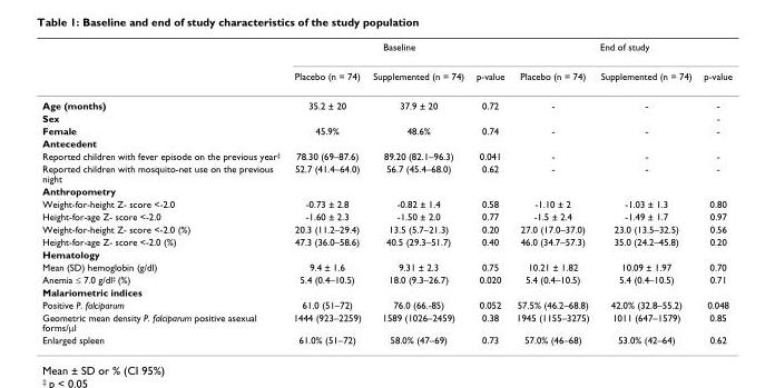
<table><thead><tr><td rowspan="2"></td><td colspan="3">Baseline</td><td colspan="3">End of study</td></tr><tr><td>Placebo (n = 74)</td><td>Supplemented (n = 74)</td><td>p-value</td><td>Placebo (n = 74)</td><td>Supplemented (n = 74)</td><td>p-value</td></tr></thead><tbody><tr><td>Age (months)</td><td>35.2 ± 20</td><td>37.9 ± 20</td><td>0.72</td><td>-</td><td>-</td><td>-</td></tr><tr><td>Sex</td><td></td><td></td><td></td><td></td><td></td><td>-</td></tr><tr><td>Female</td><td>45.9%</td><td>48.6%</td><td>0.74</td><td>-</td><td>-</td><td>-</td></tr><tr><td colspan="7">Antecedent</td></tr><tr><td>Reported children with fever episode on the previous year<sup>‡</sup></td><td>78.30 (69–87.6)</td><td>89.20 (82.1–96.3)</td><td>0.041</td><td>-</td><td>-</td><td>-</td></tr><tr><td>Reported children with mosquito-net use on the previous night</td><td>52.7 (41.4–64.0)</td><td>56.7 (45.4–68.0)</td><td>0.62</td><td>-</td><td>-</td><td>-</td></tr><tr><td colspan="7">Anthropometry</td></tr><tr><td>Weight-for-height Z- score &lt;-2.0</td><td>-0.73 ± 2.8</td><td>-0.82 ± 1.4</td><td>0.58</td><td>-1.10 ± 2</td><td>-1.03 ± 1.3</td><td>0.80</td></tr><tr><td>Height-for-age Z- score &lt;-2.0</td><td>-1.60 ± 2.3</td><td>-1.50 ± 2.0</td><td>0.77</td><td>-1.5 ± 2.4</td><td>-1.49 ± 1.7</td><td>0.97</td></tr><tr><td>Weight-for-height Z- score &lt;-2.0 (%)</td><td>20.3 (11.2–29.4)</td><td>13.5 (5.7–21.3)</td><td>0.20</td><td>27.0 (17.0–37.0)</td><td>23.0 (13.5–32.5)</td><td>0.56</td></tr><tr><td>Height-for-age Z- score &lt;-2.0 (%)</td><td>47.3 (36.0–58.6)</td><td>40.5 (29.3–51.7)</td><td>0.40</td><td>46.0 (34.7–57.3)</td><td>35.0 (24.2–45.8)</td><td>0.20</td></tr><tr><td colspan="7">Hematology</td></tr><tr><td>Mean (SD) hemoglobin (g/dl)</td><td>9.4 ± 1.6</td><td>9.31 ± 2.3</td><td>0.75</td><td>10.21 ± 1.82</td><td>10.09 ± 1.97</td><td>0.70</td></tr><tr><td>Anemia ≤ 7.0 g/dl<sup>‡</sup> (%)</td><td>5.4 (0.4–10.5)</td><td>18.0 (9.3–26.7)</td><td>0.020</td><td>5.4 (0.4–10.5)</td><td>5.4 (0.4–10.5)</td><td>0.71</td></tr><tr><td colspan="7">Malariometric indices</td></tr><tr><td>Positive P. falciparum</td><td>61.0 (51–72)</td><td>76.0 (66.-85)</td><td>0.052</td><td>57.5% (46.2–68.8)</td><td>42.0% (32.8–55.2)</td><td>0.048</td></tr><tr><td>Geometric mean density P. falciparum positive asexual forms/µl</td><td>1444 (923–2259)</td><td>1589 (1026–2459)</td><td>0.38</td><td>1945 (1155–3275)</td><td>1011 (647–1579)</td><td>0.85</td></tr><tr><td>Enlarged spleen</td><td>61.0% (51–72)</td><td>58.0% (47–69)</td><td>0.73</td><td>57.0% (46–68)</td><td>53.0% (42–64)</td><td>0.62</td></tr></tbody></table>